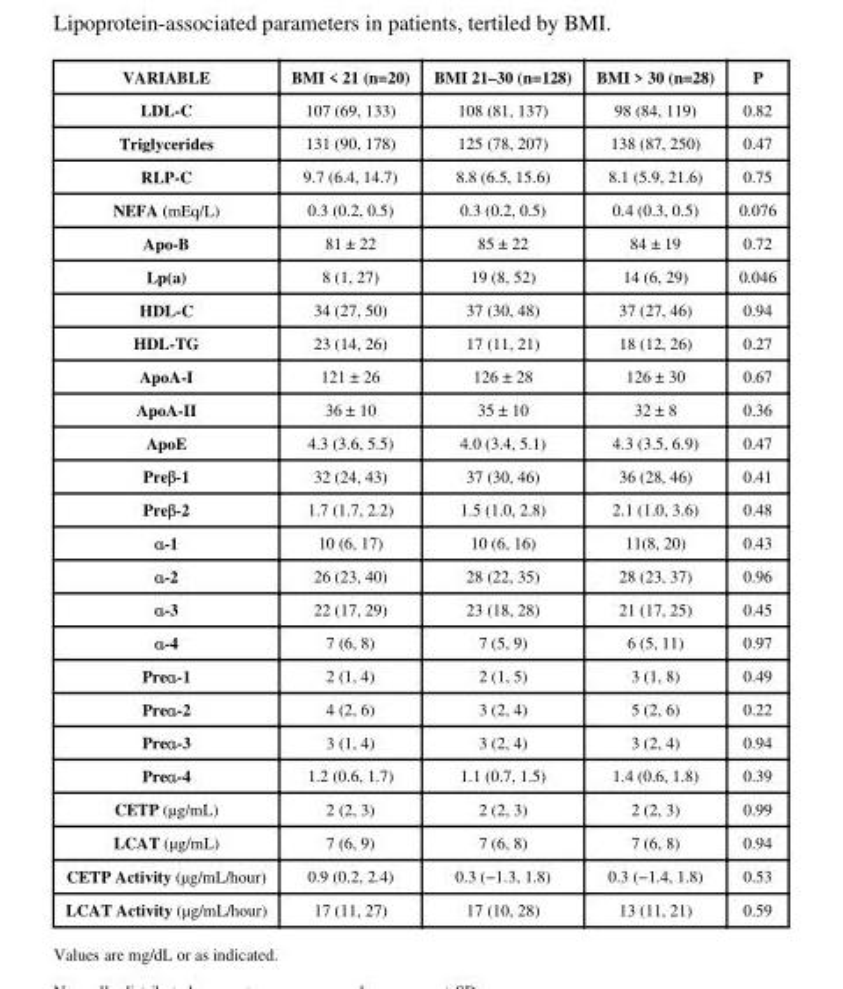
<table><thead><tr><td>VARIABLE</td><td>BMI &lt; 21 (n=20)</td><td>BMI 21–30 (n=128)</td><td>BMI &gt; 30 (n=28)</td><td>P</td></tr></thead><tbody><tr><td>LDL-C</td><td>107 (69, 133)</td><td>108 (81, 137)</td><td>98 (84, 119)</td><td>0.82</td></tr><tr><td>Triglycerides</td><td>131 (90, 178)</td><td>125 (78, 207)</td><td>138 (87, 250)</td><td>0.47</td></tr><tr><td>RLP-C</td><td>9.7 (6.4, 14.7)</td><td>8.8 (6.5, 15.6)</td><td>8.1 (5.9, 21.6)</td><td>0.75</td></tr><tr><td>NEFA (mEq/L)</td><td>0.3 (0.2, 0.5)</td><td>0.3 (0.2, 0.5)</td><td>0.4 (0.3, 0.5)</td><td>0.076</td></tr><tr><td>Apo-B</td><td>81 ± 22</td><td>85 ± 22</td><td>84 ± 19</td><td>0.72</td></tr><tr><td>Lp(a)</td><td>8 (1, 27)</td><td>19 (8, 52)</td><td>14 (6, 29)</td><td>0.046</td></tr><tr><td>HDL-C</td><td>34 (27, 50)</td><td>37 (30, 48)</td><td>37 (27, 46)</td><td>0.94</td></tr><tr><td>HDL-TG</td><td>23 (14, 26)</td><td>17 (11, 21)</td><td>18 (12, 26)</td><td>0.27</td></tr><tr><td>ApoA-I</td><td>121 ± 26</td><td>126 ± 28</td><td>126 ± 30</td><td>0.67</td></tr><tr><td>ApoA-II</td><td>36 ± 10</td><td>35 ± 10</td><td>32 ± 8</td><td>0.36</td></tr><tr><td>ApoE</td><td>4.3 (3.6, 5.5)</td><td>4.0 (3.4, 5.1)</td><td>4.3 (3.5, 6.9)</td><td>0.47</td></tr><tr><td>Preβ-1</td><td>32 (24, 43)</td><td>37 (30, 46)</td><td>36 (28, 46)</td><td>0.41</td></tr><tr><td>Preβ-2</td><td>1.7 (1.7, 2.2)</td><td>1.5 (1.0, 2.8)</td><td>2.1 (1.0, 3.6)</td><td>0.48</td></tr><tr><td>α-1</td><td>10 (6, 17)</td><td>10 (6, 16)</td><td>11(8, 20)</td><td>0.43</td></tr><tr><td>α-2</td><td>26 (23, 40)</td><td>28 (22, 35)</td><td>28 (23, 37)</td><td>0.96</td></tr><tr><td>α-3</td><td>22 (17, 29)</td><td>23 (18, 28)</td><td>21 (17, 25)</td><td>0.45</td></tr><tr><td>α-4</td><td>7 (6, 8)</td><td>7 (5, 9)</td><td>6 (5, 11)</td><td>0.97</td></tr><tr><td>Preα-1</td><td>2 (1, 4)</td><td>2 (1, 5)</td><td>3 (1, 8)</td><td>0.49</td></tr><tr><td>Preα-2</td><td>4 (2, 6)</td><td>3 (2, 4)</td><td>5 (2, 6)</td><td>0.22</td></tr><tr><td>Preα-3</td><td>3 (1, 4)</td><td>3 (2, 4)</td><td>3 (2, 4)</td><td>0.94</td></tr><tr><td>Preα-4</td><td>1.2 (0.6, 1.7)</td><td>1.1 (0.7, 1.5)</td><td>1.4 (0.6, 1.8)</td><td>0.39</td></tr><tr><td>CETP (μg/mL)</td><td>2 (2, 3)</td><td>2 (2, 3)</td><td>2 (2, 3)</td><td>0.99</td></tr><tr><td>LCAT (μg/mL)</td><td>7 (6, 9)</td><td>7 (6, 8)</td><td>7 (6, 8)</td><td>0.94</td></tr><tr><td>CETP Activity (μg/mL/hour)</td><td>0.9 (0.2, 2.4)</td><td>0.3 (−1.3, 1.8)</td><td>0.3 (−1.4, 1.8)</td><td>0.53</td></tr><tr><td>LCAT Activity (μg/mL/hour)</td><td>17 (11, 27)</td><td>17 (10, 28)</td><td>13 (11, 21)</td><td>0.59</td></tr></tbody></table>